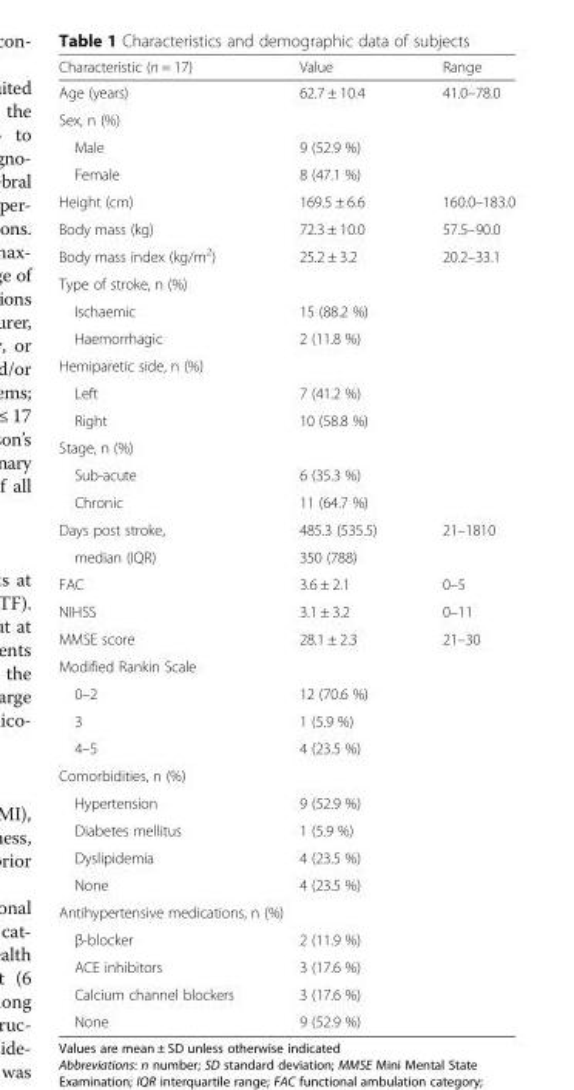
<table><thead><tr><td>Characteristic (n = 17)</td><td>Value</td><td>Range</td></tr></thead><tbody><tr><td>Age (years)</td><td>62.7 ± 10.4</td><td>41.0–78.0</td></tr><tr><td colspan="3">Sex, n (%)</td></tr><tr><td>Male</td><td>9 (52.9 %)</td><td></td></tr><tr><td>Female</td><td>8 (47.1 %)</td><td></td></tr><tr><td>Height (cm)</td><td>169.5 ± 6.6</td><td>160.0–183.0</td></tr><tr><td>Body mass (kg)</td><td>72.3 ± 10.0</td><td>57.5–90.0</td></tr><tr><td>Body mass index (kg/m<sup>2</sup>)</td><td>25.2 ± 3.2</td><td>20.2–33.1</td></tr><tr><td colspan="3">Type of stroke, n (%)</td></tr><tr><td>Ischaemic</td><td>15 (88.2 %)</td><td></td></tr><tr><td>Haemorrhagic</td><td>2 (11.8 %)</td><td></td></tr><tr><td colspan="3">Hemiparetic side, n (%)</td></tr><tr><td>Left</td><td>7 (41.2 %)</td><td></td></tr><tr><td>Right</td><td>10 (58.8 %)</td><td></td></tr><tr><td colspan="3">Stage, n (%)</td></tr><tr><td>Sub-acute</td><td>6 (35.3 %)</td><td></td></tr><tr><td>Chronic</td><td>11 (64.7 %)</td><td></td></tr><tr><td>Days post stroke,</td><td>485.3 (535.5)</td><td>21–1810</td></tr><tr><td>median (IQR)</td><td>350 (788)</td><td></td></tr><tr><td>FAC</td><td>3.6 ± 2.1</td><td>0–5</td></tr><tr><td>NIHSS</td><td>3.1 ± 3.2</td><td>0–11</td></tr><tr><td>MMSE score</td><td>28.1 ± 2.3</td><td>21–30</td></tr><tr><td colspan="3">Modified Rankin Scale</td></tr><tr><td>0–2</td><td>12 (70.6 %)</td><td></td></tr><tr><td>3</td><td>1 (5.9 %)</td><td></td></tr><tr><td>4–5</td><td>4 (23.5 %)</td><td></td></tr><tr><td colspan="3">Comorbidities, n (%)</td></tr><tr><td>Hypertension</td><td>9 (52.9 %)</td><td></td></tr><tr><td>Diabetes mellitus</td><td>1 (5.9 %)</td><td></td></tr><tr><td>Dyslipidemia</td><td>4 (23.5 %)</td><td></td></tr><tr><td>None</td><td>4 (23.5 %)</td><td></td></tr><tr><td colspan="3">Antihypertensive medications, n (%)</td></tr><tr><td>β-blocker</td><td>2 (11.9 %)</td><td></td></tr><tr><td>ACE inhibitors</td><td>3 (17.6 %)</td><td></td></tr><tr><td>Calcium channel blockers</td><td>3 (17.6 %)</td><td></td></tr><tr><td>None</td><td>9 (52.9 %)</td><td></td></tr></tbody></table>